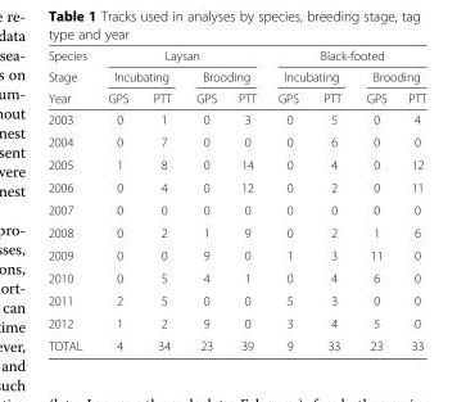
<table><thead><tr><td rowspan="3">Species Stage Year</td><td colspan="4">Laysan</td><td colspan="4">Black-footed</td></tr><tr><td colspan="2">Incubating</td><td colspan="2">Brooding</td><td colspan="2">Incubating</td><td colspan="2">Brooding</td></tr><tr><td>GPS</td><td>PTT</td><td>GPS</td><td>PTT</td><td>GPS</td><td>PTT</td><td>GPS</td><td>PTT</td></tr></thead><tbody><tr><td>2003</td><td>0</td><td>1</td><td>0</td><td>3</td><td>0</td><td>5</td><td>0</td><td>4</td></tr><tr><td>2004</td><td>0</td><td>7</td><td>0</td><td>0</td><td>0</td><td>6</td><td>0</td><td>0</td></tr><tr><td>2005</td><td>1</td><td>8</td><td>0</td><td>14</td><td>0</td><td>4</td><td>0</td><td>12</td></tr><tr><td>2006</td><td>0</td><td>4</td><td>0</td><td>12</td><td>0</td><td>2</td><td>0</td><td>11</td></tr><tr><td>2007</td><td>0</td><td>0</td><td>0</td><td>0</td><td>0</td><td>0</td><td>0</td><td>0</td></tr><tr><td>2008</td><td>0</td><td>2</td><td>1</td><td>9</td><td>0</td><td>2</td><td>1</td><td>6</td></tr><tr><td>2009</td><td>0</td><td>0</td><td>9</td><td>0</td><td>1</td><td>3</td><td>11</td><td>0</td></tr><tr><td>2010</td><td>0</td><td>5</td><td>4</td><td>1</td><td>0</td><td>4</td><td>6</td><td>0</td></tr><tr><td>2011</td><td>2</td><td>5</td><td>0</td><td>0</td><td>5</td><td>3</td><td>0</td><td>0</td></tr><tr><td>2012</td><td>1</td><td>2</td><td>9</td><td>0</td><td>3</td><td>4</td><td>5</td><td>0</td></tr><tr><td>TOTAL</td><td>4</td><td>34</td><td>23</td><td>39</td><td>9</td><td>33</td><td>23</td><td>33</td></tr></tbody></table>